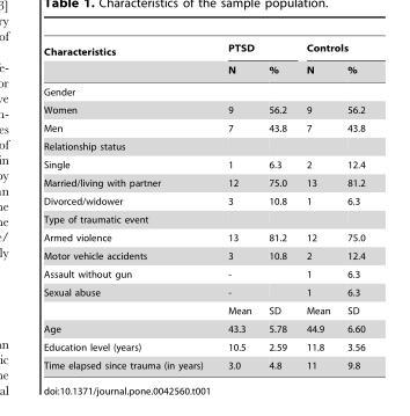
<table><thead><tr><td rowspan="2">Characteristics</td><td colspan="2">PTSD</td><td colspan="2">Controls</td></tr><tr><td>N</td><td>%</td><td>N</td><td>%</td></tr></thead><tbody><tr><td colspan="5">Gender</td></tr><tr><td>Women</td><td>9</td><td>56.2</td><td>9</td><td>56.2</td></tr><tr><td>Men</td><td>7</td><td>43.8</td><td>7</td><td>43.8</td></tr><tr><td colspan="5">Relationship status</td></tr><tr><td>Single</td><td>1</td><td>6.3</td><td>2</td><td>12.4</td></tr><tr><td>Married/living with partner</td><td>12</td><td>75.0</td><td>13</td><td>81.2</td></tr><tr><td>Divorced/widower</td><td>3</td><td>10.8</td><td>1</td><td>6.3</td></tr><tr><td colspan="5">Type of traumatic event</td></tr><tr><td>Armed violence</td><td>13</td><td>81.2</td><td>12</td><td>75.0</td></tr><tr><td>Motor vehicle accidents</td><td>3</td><td>10.8</td><td>2</td><td>12.4</td></tr><tr><td>Assault without gun</td><td>-</td><td></td><td>1</td><td>6.3</td></tr><tr><td rowspan="2">Sexual abuse</td><td>-</td><td></td><td>1</td><td>6.3</td></tr><tr><td>Mean</td><td>SD</td><td>Mean</td><td>SD</td></tr><tr><td>Age</td><td>43.3</td><td>5.78</td><td>44.9</td><td>6.60</td></tr><tr><td>Education level (years)</td><td>10.5</td><td>2.59</td><td>11.8</td><td>3.56</td></tr><tr><td>Time elapsed since trauma (in years)</td><td>3.0</td><td>4.8</td><td>11</td><td>9.8</td></tr></tbody></table>